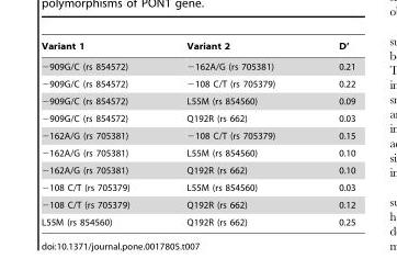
<table><thead><tr><td>Variant 1</td><td>Variant 2</td><td>D’</td></tr></thead><tbody><tr><td>−909G/C (rs 854572)</td><td>−162A/G (rs 705381)</td><td>0.21</td></tr><tr><td>−909G/C (rs 854572)</td><td>−108 C/T (rs 705379)</td><td>0.22</td></tr><tr><td>−909G/C (rs 854572)</td><td>L55M (rs 854560)</td><td>0.09</td></tr><tr><td>−909G/C (rs 854572)</td><td>Q192R (rs 662)</td><td>0.03</td></tr><tr><td>−162A/G (rs 705381)</td><td>−108 C/T (rs 705379)</td><td>0.15</td></tr><tr><td>−162A/G (rs 705381)</td><td>L55M (rs 854560)</td><td>0.10</td></tr><tr><td>−162A/G (rs 705381)</td><td>Q192R (rs 662)</td><td>0.10</td></tr><tr><td>−108 C/T (rs 705379)</td><td>L55M (rs 854560)</td><td>0.03</td></tr><tr><td>−108 C/T (rs 705379)</td><td>Q192R (rs 662)</td><td>0.12</td></tr><tr><td>L55M (rs 854560)</td><td>Q192R (rs 662)</td><td>0.25</td></tr></tbody></table>